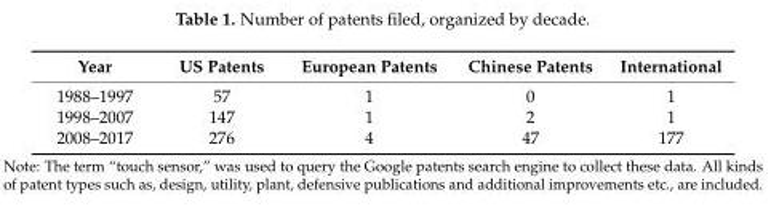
<table><thead><tr><td>Year</td><td>US Patents</td><td>European Patents</td><td>Chinese Patents</td><td>International</td></tr></thead><tbody><tr><td>1988–1997</td><td>57</td><td>1</td><td>0</td><td>1</td></tr><tr><td>1998–2007</td><td>147</td><td>1</td><td>2</td><td>1</td></tr><tr><td>2008–2017</td><td>276</td><td>4</td><td>47</td><td>177</td></tr></tbody></table>